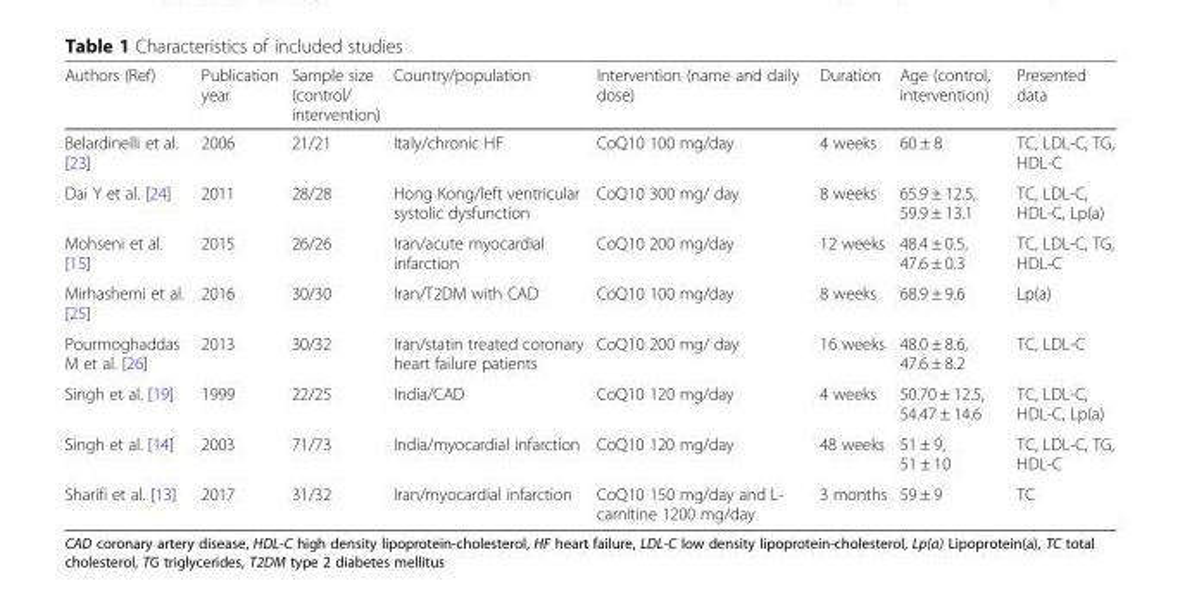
<table><thead><tr><td>Authors (Ref)</td><td>Publication year</td><td>Sample size (control/ intervention)</td><td>Country/population</td><td>Intervention (name and daily dose)</td><td>Duration</td><td>Age (control, intervention)</td><td>Presented data</td></tr></thead><tbody><tr><td>Belardinelli et al. [23]</td><td>2006</td><td>21/21</td><td>Italy/chronic HF</td><td>CoQ10 100 mg/day</td><td>4 weeks</td><td>60 ± 8</td><td>TC, LDL-C, TG, HDL-C</td></tr><tr><td>Dai Y et al. [24]</td><td>2011</td><td>28/28</td><td>Hong Kong/left ventricular systolic dysfunction</td><td>CoQ10 300 mg/ day</td><td>8 weeks</td><td>65.9 ± 12.5, 59.9 ± 13.1</td><td>TC, LDL-C, HDL-C, Lp(a)</td></tr><tr><td>Mohseni et al. [15]</td><td>2015</td><td>26/26</td><td>Iran/acute myocardial infarction</td><td>CoQ10 200 mg/day</td><td>12 weeks</td><td>48.4 ± 0.5, 47.6 ± 0.3</td><td>TC, LDL-C, TG, HDL-C</td></tr><tr><td>Mirhashemi et al. [25]</td><td>2016</td><td>30/30</td><td>Iran/T2DM with CAD</td><td>CoQ10 100 mg/day</td><td>8 weeks</td><td>68.9 ± 9.6</td><td>Lp(a)</td></tr><tr><td>Pourmoghaddas M et al. [26]</td><td>2013</td><td>30/32</td><td>Iran/statin treated coronary heart failure patients</td><td>CoQ10 200 mg/ day</td><td>16 weeks</td><td>48.0 ± 8.6, 47.6 ± 8.2</td><td>TC, LDL-C</td></tr><tr><td>Singh et al. [19]</td><td>1999</td><td>22/25</td><td>India/CAD</td><td>CoQ10 120 mg/day</td><td>4 weeks</td><td>50.70 ± 12.5, 54.47 ± 14.6</td><td>TC, LDL-C, HDL-C, Lp(a)</td></tr><tr><td>Singh et al. [14]</td><td>2003</td><td>71/73</td><td>India/myocardial infarction</td><td>CoQ10 120 mg/day</td><td>48 weeks</td><td>51 ± 9, 51 ± 10</td><td>TC, LDL-C, TG, HDL-C</td></tr><tr><td>Sharifi et al. [13]</td><td>2017</td><td>31/32</td><td>Iran/myocardial infarction</td><td>CoQ10 150 mg/day and L- carnitine 1200 mg/day</td><td>3 months</td><td>59 ± 9</td><td>TC</td></tr></tbody></table>